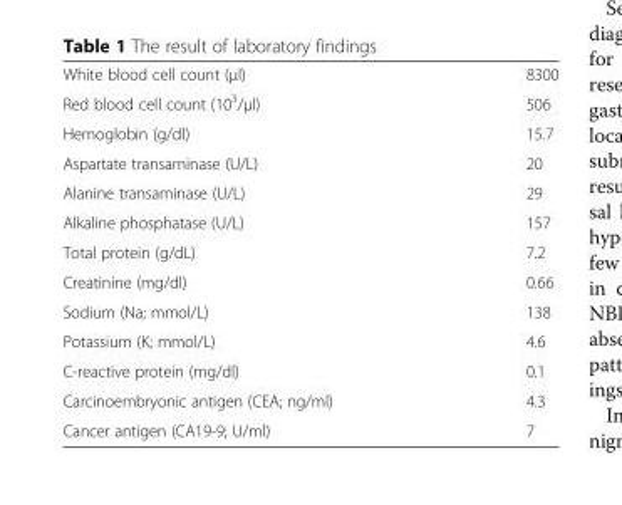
<table><tbody><tr><td>White blood cell count (μl)</td><td>8300</td></tr><tr><td>Red blood cell count (10<sup>3</sup>/μl)</td><td>506</td></tr><tr><td>Hemoglobin (g/dl)</td><td>15.7</td></tr><tr><td>Aspartate transaminase (U/L)</td><td>20</td></tr><tr><td>Alanine transaminase (U/L)</td><td>29</td></tr><tr><td>Alkaline phosphatase (U/L)</td><td>157</td></tr><tr><td>Total protein (g/dL)</td><td>7.2</td></tr><tr><td>Creatinine (mg/dl)</td><td>0.66</td></tr><tr><td>Sodium (Na; mmol/L)</td><td>138</td></tr><tr><td>Potassium (K; mmol/L)</td><td>4.6</td></tr><tr><td>C-reactive protein (mg/dl)</td><td>0.1</td></tr><tr><td>Carcinoembryonic antigen (CEA; ng/ml)</td><td>4.3</td></tr><tr><td>Cancer antigen (CA19-9; U/ml)</td><td>7</td></tr></tbody></table>